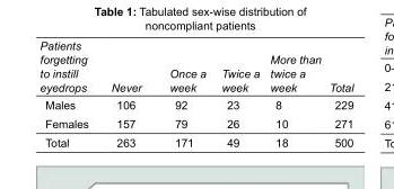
<table><tbody><tr><td>Patients forgetting to instill eyedrops</td><td>Never</td><td>Once a week</td><td>Twice a week</td><td>More than twice a week</td><td>Total</td></tr><tr><td>Males</td><td>106</td><td>92</td><td>23</td><td>8</td><td>229</td></tr><tr><td>Females</td><td>157</td><td>79</td><td>26</td><td>10</td><td>271</td></tr><tr><td>Total</td><td>263</td><td>171</td><td>49</td><td>18</td><td>500</td></tr></tbody></table>